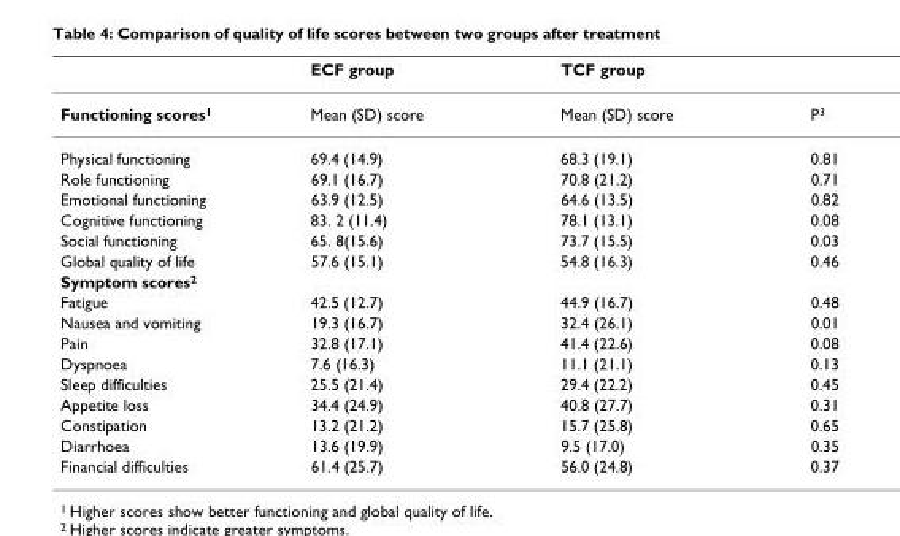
<table><thead><tr><td></td><td>ECF group</td><td>TCF group</td><td></td></tr></thead><tbody><tr><td>Functioning scores1</td><td>Mean (SD) score</td><td>Mean (SD) score</td><td>P3</td></tr><tr><td>Physical functioning</td><td>69.4 (14.9)</td><td>68.3 (19.1)</td><td>0.81</td></tr><tr><td>Role functioning</td><td>69.1 (16.7)</td><td>70.8 (21.2)</td><td>0.71</td></tr><tr><td>Emotional functioning</td><td>63.9 (12.5)</td><td>64.6 (13.5)</td><td>0.82</td></tr><tr><td>Cognitive functioning</td><td>83. 2 (11.4)</td><td>78.1 (13.1)</td><td>0.08</td></tr><tr><td>Social functioning</td><td>65. 8(15.6)</td><td>73.7 (15.5)</td><td>0.03</td></tr><tr><td>Global quality of life</td><td>57.6 (15.1)</td><td>54.8 (16.3)</td><td>0.46</td></tr><tr><td colspan="4">Symptom scores2</td></tr><tr><td>Fatigue</td><td>42.5 (12.7)</td><td>44.9 (16.7)</td><td>0.48</td></tr><tr><td>Nausea and vomiting</td><td>19.3 (16.7)</td><td>32.4 (26.1)</td><td>0.01</td></tr><tr><td>Pain</td><td>32.8 (17.1)</td><td>41.4 (22.6)</td><td>0.08</td></tr><tr><td>Dyspnoea</td><td>7.6 (16.3)</td><td>11.1 (21.1)</td><td>0.13</td></tr><tr><td>Sleep difficulties</td><td>25.5 (21.4)</td><td>29.4 (22.2)</td><td>0.45</td></tr><tr><td>Appetite loss</td><td>34.4 (24.9)</td><td>40.8 (27.7)</td><td>0.31</td></tr><tr><td>Constipation</td><td>13.2 (21.2)</td><td>15.7 (25.8)</td><td>0.65</td></tr><tr><td>Diarrhoea</td><td>13.6 (19.9)</td><td>9.5 (17.0)</td><td>0.35</td></tr><tr><td>Financial difficulties</td><td>61.4 (25.7)</td><td>56.0 (24.8)</td><td>0.37</td></tr></tbody></table>